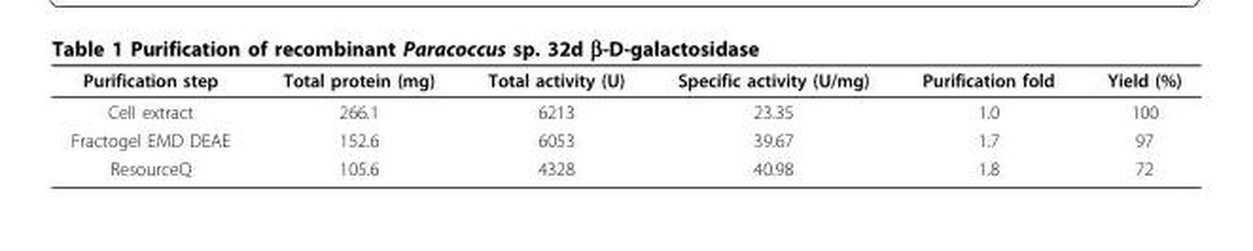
<table><thead><tr><td>Purification step</td><td>Total protein (mg)</td><td>Total activity (U)</td><td>Specific activity (U/mg)</td><td>Purification fold</td><td>Yield (%)</td></tr></thead><tbody><tr><td>Cell extract</td><td>266.1</td><td>6213</td><td>23.35</td><td>1.0</td><td>100</td></tr><tr><td>Fractogel EMD DEAE</td><td>152.6</td><td>6053</td><td>39.67</td><td>1.7</td><td>97</td></tr><tr><td>ResourceQ</td><td>105.6</td><td>4328</td><td>40.98</td><td>1.8</td><td>72</td></tr></tbody></table>